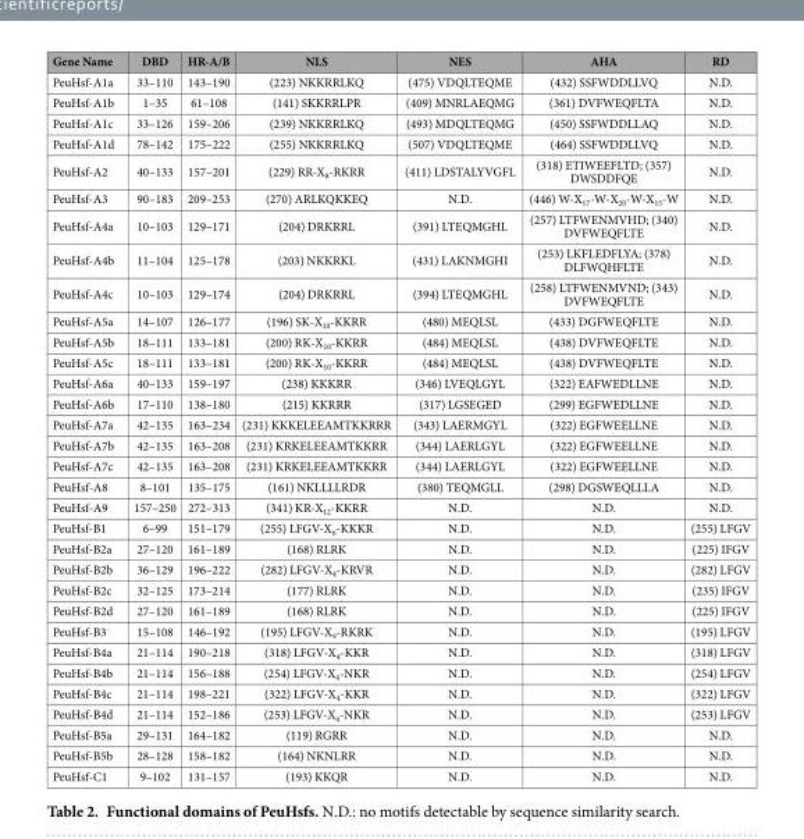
<table><thead><tr><td>Gene Name</td><td>DBD</td><td>HR-A/B</td><td>NLS</td><td>NES</td><td>AHA</td><td>RD</td></tr></thead><tbody><tr><td>PeuHsf-A1a</td><td>33–110</td><td>143–190</td><td>(223) NKKRRLKQ</td><td>(475) VDQLTEQME</td><td>(432) SSFWDDLLVQ</td><td>N.D.</td></tr><tr><td>PeuHsf-A1b</td><td>1–35</td><td>61–108</td><td>(141) SKKRRLPR</td><td>(409) MNRLAEQMG</td><td>(361) DVFWEQFLTA</td><td>N.D.</td></tr><tr><td>PeuHsf-A1c</td><td>33–126</td><td>159–206</td><td>(239) NKKRRLKQ</td><td>(493) MDQLTEQMG</td><td>(450) SSFWDDLLAQ</td><td>N.D.</td></tr><tr><td>PeuHsf-A1d</td><td>78–142</td><td>175–222</td><td>(255) NKKRRLKQ</td><td>(507) VDQLTEQME</td><td>(464) SSFWDDLLVQ</td><td>N.D.</td></tr><tr><td>PeuHsf-A2</td><td>40–133</td><td>157–201</td><td>(229) RR-X<sub>8</sub>-RKRR</td><td>(411) LDSTALYVGFL</td><td>(318) ETIWEEFLTD; (357) DWSDDFQE</td><td>N.D.</td></tr><tr><td>PeuHsf-A3</td><td>90–183</td><td>209–253</td><td>(270) ARLKQKKEQ</td><td>N.D.</td><td>(446) W-X<sub>17</sub>-W-X<sub>20</sub>-W-X<sub>15</sub>-W</td><td>N.D.</td></tr><tr><td>PeuHsf-A4a</td><td>10–103</td><td>129–171</td><td>(204) DRKRRL</td><td>(391) LTEQMGHL</td><td>(257) LTFWENMVHD; (340) DVFWEQFLTE</td><td>N.D.</td></tr><tr><td>PeuHsf-A4b</td><td>11–104</td><td>125–178</td><td>(203) NKKRKL</td><td>(431) LAKNMGHI</td><td>(253) LKFLEDFLYA; (378) DLFWQHFLTE</td><td>N.D.</td></tr><tr><td>PeuHsf-A4c</td><td>10–103</td><td>129–174</td><td>(204) DRKRRL</td><td>(394) LTEQMGHL</td><td>(258) LTFWENMVND; (343) DVFWEQFLTE</td><td>N.D.</td></tr><tr><td>PeuHsf-A5a</td><td>14–107</td><td>126–177</td><td>(196) SK-X<sub>10</sub>-KKRR</td><td>(480) MEQLSL</td><td>(433) DGFWEQFLTE</td><td>N.D.</td></tr><tr><td>PeuHsf-A5b</td><td>18–111</td><td>133–181</td><td>(200) RK-X<sub>10</sub>-KKRR</td><td>(484) MEQLSL</td><td>(438) DVFWEQFLTE</td><td>N.D.</td></tr><tr><td>PeuHsf-A5c</td><td>18–111</td><td>133–181</td><td>(200) RK-X<sub>10</sub>-KKRR</td><td>(484) MEQLSL</td><td>(438) DVFWEQFLTE</td><td>N.D.</td></tr><tr><td>PeuHsf-A6a</td><td>40–133</td><td>159–197</td><td>(238) KKKRR</td><td>(346) LVEQLGYL</td><td>(322) EAFWEDLLNE</td><td>N.D.</td></tr><tr><td>PeuHsf-A6b</td><td>17–110</td><td>138–180</td><td>(215) KKRRR</td><td>(317) LGSEGED</td><td>(299) EGFWEDLLNE</td><td>N.D.</td></tr><tr><td>PeuHsf-A7a</td><td>42–135</td><td>163–234</td><td>(231) KKKELEEAMTKKRRR</td><td>(343) LAERMGYL</td><td>(322) EGFWEELLNE</td><td>N.D.</td></tr><tr><td>PeuHsf-A7b</td><td>42–135</td><td>163–208</td><td>(231) KRKELEEAMTKKRR</td><td>(344) LAERLGYL</td><td>(322) EGFWEELLNE</td><td>N.D.</td></tr><tr><td>PeuHsf-A7c</td><td>42–135</td><td>163–208</td><td>(231) KRKELEEAMTKKRR</td><td>(344) LAERLGYL</td><td>(322) EGFWEELLNE</td><td>N.D.</td></tr><tr><td>PeuHsf-A8</td><td>8–101</td><td>135–175</td><td>(161) NKLLLLRDR</td><td>(380) TEQMGLL</td><td>(298) DGSWEQLLLA</td><td>N.D.</td></tr><tr><td>PeuHsf-A9</td><td>157–250</td><td>272–313</td><td>(341) KR-X<sub>12</sub>-KKRR</td><td>N.D.</td><td>N.D.</td><td>N.D.</td></tr><tr><td>PeuHsf-B1</td><td>6–99</td><td>151–179</td><td>(255) LFGV-X<sub>6</sub>-KKKR</td><td>N.D.</td><td>N.D.</td><td>(255) LFGV</td></tr><tr><td>PeuHsf-B2a</td><td>27–120</td><td>161–189</td><td>(168) RLRK</td><td>N.D.</td><td>N.D.</td><td>(225) IFGV</td></tr><tr><td>PeuHsf-B2b</td><td>36–129</td><td>196–222</td><td>(282) LFGV-X<sub>4</sub>-KRVR</td><td>N.D.</td><td>N.D.</td><td>(282) LFGV</td></tr><tr><td>PeuHsf-B2c</td><td>32–125</td><td>173–214</td><td>(177) RLRK</td><td>N.D.</td><td>N.D.</td><td>(235) IFGV</td></tr><tr><td>PeuHsf-B2d</td><td>27–120</td><td>161–189</td><td>(168) RLRK</td><td>N.D.</td><td>N.D.</td><td>(225) IFGV</td></tr><tr><td>PeuHsf-B3</td><td>15–108</td><td>146–192</td><td>(195) LFGV-X<sub>9</sub>-RKRK</td><td>N.D.</td><td>N.D.</td><td>(195) LFGV</td></tr><tr><td>PeuHsf-B4a</td><td>21–114</td><td>190–218</td><td>(318) LFGV-X<sub>4</sub>-KKR</td><td>N.D.</td><td>N.D.</td><td>(318) LFGV</td></tr><tr><td>PeuHsf-B4b</td><td>21–114</td><td>156–188</td><td>(254) LFGV-X<sub>4</sub>-NKR</td><td>N.D.</td><td>N.D.</td><td>(254) LFGV</td></tr><tr><td>PeuHsf-B4c</td><td>21–114</td><td>198–221</td><td>(322) LFGV-X<sub>4</sub>-KKR</td><td>N.D.</td><td>N.D.</td><td>(322) LFGV</td></tr><tr><td>PeuHsf-B4d</td><td>21–114</td><td>152–186</td><td>(253) LFGV-X<sub>4</sub>-NKR</td><td>N.D.</td><td>N.D.</td><td>(253) LFGV</td></tr><tr><td>PeuHsf-B5a</td><td>29–131</td><td>164–182</td><td>(119) RGRR</td><td>N.D.</td><td>N.D.</td><td>N.D.</td></tr><tr><td>PeuHsf-B5b</td><td>28–128</td><td>158–182</td><td>(164) NKNLRR</td><td>N.D.</td><td>N.D.</td><td>N.D.</td></tr><tr><td>PeuHsf-C1</td><td>9–102</td><td>131–157</td><td>(193) KKQR</td><td>N.D.</td><td>N.D.</td><td>N.D.</td></tr></tbody></table>